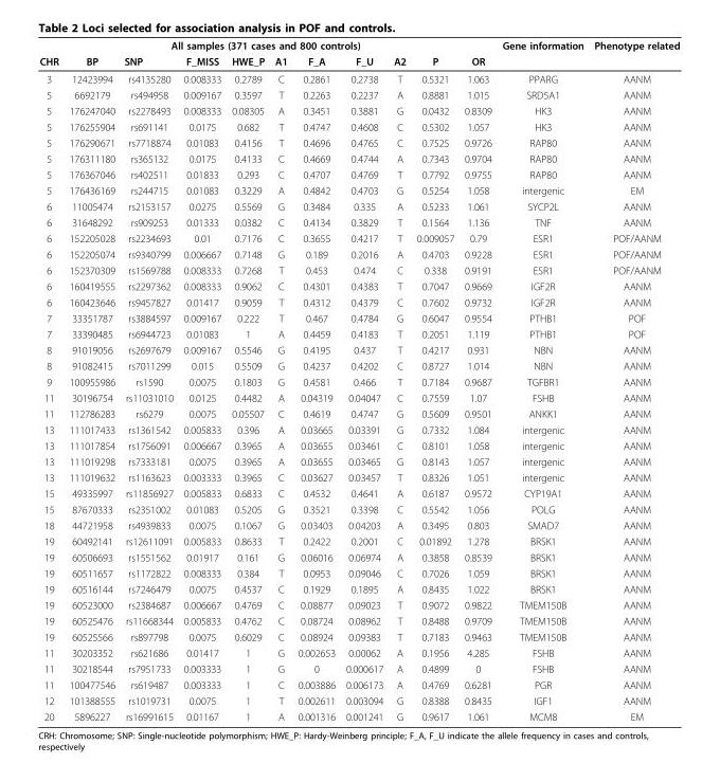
<table><thead><tr><td colspan="11">All samples (371 cases and 800 controls)</td><td rowspan="2">Gene information</td><td rowspan="2">Phenotype related</td></tr><tr><td>CHR</td><td>BP</td><td>SNP</td><td>F_MISS</td><td>HWE_P</td><td>A1</td><td>F_A</td><td>F_U</td><td>A2</td><td>P</td><td>OR</td></tr></thead><tbody><tr><td>3</td><td>12423994</td><td>rs4135280</td><td>0.008333</td><td>0.2789</td><td>C</td><td>0.2861</td><td>0.2738</td><td>T</td><td>0.5321</td><td>1.063</td><td>PPARG</td><td>AANM</td></tr><tr><td>5</td><td>6692179</td><td>rs494958</td><td>0.009167</td><td>0.3597</td><td>T</td><td>0.2263</td><td>0.2237</td><td>A</td><td>0.8881</td><td>1.015</td><td>SRD5A1</td><td>AANM</td></tr><tr><td>5</td><td>176247040</td><td>rs2278493</td><td>0.008333</td><td>0.08305</td><td>A</td><td>0.3451</td><td>0.3881</td><td>G</td><td>0.0432</td><td>0.8309</td><td>HK3</td><td>AANM</td></tr><tr><td>5</td><td>176255904</td><td>rs691141</td><td>0.0175</td><td>0.682</td><td>T</td><td>0.4747</td><td>0.4608</td><td>C</td><td>0.5302</td><td>1.057</td><td>HK3</td><td>AANM</td></tr><tr><td>5</td><td>176290671</td><td>rs7718874</td><td>0.01083</td><td>0.4156</td><td>T</td><td>0.4696</td><td>0.4765</td><td>C</td><td>0.7525</td><td>0.9726</td><td>RAP80</td><td>AANM</td></tr><tr><td>5</td><td>176311180</td><td>rs365132</td><td>0.0175</td><td>0.4133</td><td>C</td><td>0.4669</td><td>0.4744</td><td>A</td><td>0.7343</td><td>0.9704</td><td>RAP80</td><td>AANM</td></tr><tr><td>5</td><td>176367046</td><td>rs402511</td><td>0.01833</td><td>0.293</td><td>C</td><td>0.4707</td><td>0.4769</td><td>T</td><td>0.7792</td><td>0.9755</td><td>RAP80</td><td>AANM</td></tr><tr><td>5</td><td>176436169</td><td>rs244715</td><td>0.01083</td><td>0.3229</td><td>A</td><td>0.4842</td><td>0.4703</td><td>G</td><td>0.5254</td><td>1.058</td><td>intergenic</td><td>EM</td></tr><tr><td>6</td><td>11005474</td><td>rs2153157</td><td>0.0275</td><td>0.5569</td><td>G</td><td>0.3484</td><td>0.335</td><td>A</td><td>0.5233</td><td>1.061</td><td>SYCP2L</td><td>AANM</td></tr><tr><td>6</td><td>31648292</td><td>rs909253</td><td>0.01333</td><td>0.0382</td><td>C</td><td>0.4134</td><td>0.3829</td><td>T</td><td>0.1564</td><td>1.136</td><td>TNF</td><td>AANM</td></tr><tr><td>6</td><td>152205028</td><td>rs2234693</td><td>0.01</td><td>0.7176</td><td>C</td><td>0.3655</td><td>0.4217</td><td>T</td><td>0.009057</td><td>0.79</td><td>ESR1</td><td>POF/AANM</td></tr><tr><td>6</td><td>152205074</td><td>rs9340799</td><td>0.006667</td><td>0.7148</td><td>G</td><td>0.189</td><td>0.2016</td><td>A</td><td>0.4703</td><td>0.9228</td><td>ESR1</td><td>POF/AANM</td></tr><tr><td>6</td><td>152370309</td><td>rs1569788</td><td>0.008333</td><td>0.7268</td><td>T</td><td>0.453</td><td>0.474</td><td>C</td><td>0.338</td><td>0.9191</td><td>ESR1</td><td>POF/AANM</td></tr><tr><td>6</td><td>160419555</td><td>rs2297362</td><td>0.008333</td><td>0.9062</td><td>C</td><td>0.4301</td><td>0.4383</td><td>T</td><td>0.7047</td><td>0.9669</td><td>IGF2R</td><td>AANM</td></tr><tr><td>6</td><td>160423646</td><td>rs9457827</td><td>0.01417</td><td>0.9059</td><td>T</td><td>0.4312</td><td>0.4379</td><td>C</td><td>0.7602</td><td>0.9732</td><td>IGF2R</td><td>AANM</td></tr><tr><td>7</td><td>33351787</td><td>rs3884597</td><td>0.009167</td><td>0.222</td><td>T</td><td>0.467</td><td>0.4784</td><td>G</td><td>0.6047</td><td>0.9554</td><td>PTHB1</td><td>POF</td></tr><tr><td>7</td><td>33390485</td><td>rs6944723</td><td>0.01083</td><td>1</td><td>A</td><td>0.4459</td><td>0.4183</td><td>T</td><td>0.2051</td><td>1.119</td><td>PTHB1</td><td>POF</td></tr><tr><td>8</td><td>91019056</td><td>rs2697679</td><td>0.009167</td><td>0.5546</td><td>G</td><td>0.4195</td><td>0.437</td><td>T</td><td>0.4217</td><td>0.931</td><td>NBN</td><td>AANM</td></tr><tr><td>8</td><td>91082415</td><td>rs7011299</td><td>0.015</td><td>0.5509</td><td>G</td><td>0.4237</td><td>0.4202</td><td>C</td><td>0.8727</td><td>1.014</td><td>NBN</td><td>AANM</td></tr><tr><td>9</td><td>100955986</td><td>rs1590</td><td>0.0075</td><td>0.1803</td><td>G</td><td>0.4581</td><td>0.466</td><td>T</td><td>0.7184</td><td>0.9687</td><td>TGFBR1</td><td>AANM</td></tr><tr><td>11</td><td>30196754</td><td>rs11031010</td><td>0.0125</td><td>0.4482</td><td>A</td><td>0.04319</td><td>0.04047</td><td>C</td><td>0.7559</td><td>1.07</td><td>FSHB</td><td>AANM</td></tr><tr><td>11</td><td>112786283</td><td>rs6279</td><td>0.0075</td><td>0.05507</td><td>C</td><td>0.4619</td><td>0.4747</td><td>G</td><td>0.5609</td><td>0.9501</td><td>ANKK1</td><td>AANM</td></tr><tr><td>13</td><td>111017433</td><td>rs1361542</td><td>0.005833</td><td>0.396</td><td>A</td><td>0.03665</td><td>0.03391</td><td>G</td><td>0.7332</td><td>1.084</td><td>intergenic</td><td>AANM</td></tr><tr><td>13</td><td>111017854</td><td>rs1756091</td><td>0.006667</td><td>0.3965</td><td>A</td><td>0.03655</td><td>0.03461</td><td>C</td><td>0.8101</td><td>1.058</td><td>intergenic</td><td>AANM</td></tr><tr><td>13</td><td>111019298</td><td>rs7333181</td><td>0.0075</td><td>0.3965</td><td>A</td><td>0.03655</td><td>0.03465</td><td>G</td><td>0.8143</td><td>1.057</td><td>intergenic</td><td>AANM</td></tr><tr><td>13</td><td>111019632</td><td>rs1163623</td><td>0.003333</td><td>0.3965</td><td>C</td><td>0.03627</td><td>0.03457</td><td>T</td><td>0.8326</td><td>1.051</td><td>intergenic</td><td>AANM</td></tr><tr><td>15</td><td>49335997</td><td>rs11856927</td><td>0.005833</td><td>0.6833</td><td>C</td><td>0.4532</td><td>0.4641</td><td>A</td><td>0.6187</td><td>0.9572</td><td>CYP19A1</td><td>AANM</td></tr><tr><td>15</td><td>87670333</td><td>rs2351002</td><td>0.01083</td><td>0.5205</td><td>G</td><td>0.3521</td><td>0.3398</td><td>C</td><td>0.5542</td><td>1.056</td><td>POLG</td><td>AANM</td></tr><tr><td>18</td><td>44721958</td><td>rs4939833</td><td>0.0075</td><td>0.1067</td><td>G</td><td>0.03403</td><td>0.04203</td><td>A</td><td>0.3495</td><td>0.803</td><td>SMAD7</td><td>AANM</td></tr><tr><td>19</td><td>60492141</td><td>rs12611091</td><td>0.005833</td><td>0.8633</td><td>T</td><td>0.2422</td><td>0.2001</td><td>C</td><td>0.01892</td><td>1.278</td><td>BRSK1</td><td>AANM</td></tr><tr><td>19</td><td>60506693</td><td>rs1551562</td><td>0.01917</td><td>0.161</td><td>G</td><td>0.06016</td><td>0.06974</td><td>A</td><td>0.3858</td><td>0.8539</td><td>BRSK1</td><td>AANM</td></tr><tr><td>19</td><td>60511657</td><td>rs1172822</td><td>0.008333</td><td>0.384</td><td>T</td><td>0.0953</td><td>0.09046</td><td>C</td><td>0.7026</td><td>1.059</td><td>BRSK1</td><td>AANM</td></tr><tr><td>19</td><td>60516144</td><td>rs7246479</td><td>0.0075</td><td>0.4537</td><td>C</td><td>0.1929</td><td>0.1895</td><td>A</td><td>0.8435</td><td>1.022</td><td>BRSK1</td><td>AANM</td></tr><tr><td>19</td><td>60523000</td><td>rs2384687</td><td>0.006667</td><td>0.4769</td><td>C</td><td>0.08877</td><td>0.09023</td><td>T</td><td>0.9072</td><td>0.9822</td><td>TMEM150B</td><td>AANM</td></tr><tr><td>19</td><td>60525476</td><td>rs11668344</td><td>0.005833</td><td>0.4762</td><td>C</td><td>0.08724</td><td>0.08962</td><td>T</td><td>0.8488</td><td>0.9709</td><td>TMEM150B</td><td>AANM</td></tr><tr><td>19</td><td>60525566</td><td>rs897798</td><td>0.0075</td><td>0.6029</td><td>C</td><td>0.08924</td><td>0.09383</td><td>T</td><td>0.7183</td><td>0.9463</td><td>TMEM150B</td><td>AANM</td></tr><tr><td>11</td><td>30203352</td><td>rs621686</td><td>0.01417</td><td>1</td><td>G</td><td>0.002653</td><td>0.00062</td><td>A</td><td>0.1956</td><td>4.285</td><td>FSHB</td><td>AANM</td></tr><tr><td>11</td><td>30218544</td><td>rs7951733</td><td>0.003333</td><td>1</td><td>G</td><td>0</td><td>0.000617</td><td>A</td><td>0.4899</td><td>0</td><td>FSHB</td><td>AANM</td></tr><tr><td>11</td><td>100477546</td><td>rs619487</td><td>0.003333</td><td>1</td><td>C</td><td>0.003886</td><td>0.006173</td><td>A</td><td>0.4769</td><td>0.6281</td><td>PGR</td><td>AANM</td></tr><tr><td>12</td><td>101388555</td><td>rs1019731</td><td>0.0075</td><td>1</td><td>T</td><td>0.002611</td><td>0.003094</td><td>G</td><td>0.8388</td><td>0.8435</td><td>IGF1</td><td>AANM</td></tr><tr><td>20</td><td>5896227</td><td>rs16991615</td><td>0.01167</td><td>1</td><td>A</td><td>0.001316</td><td>0.001241</td><td>G</td><td>0.9617</td><td>1.061</td><td>MCM8</td><td>EM</td></tr></tbody></table>